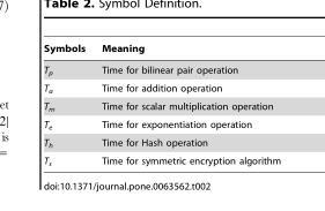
<table><thead><tr><td>Symbols</td><td>Meaning</td></tr></thead><tbody><tr><td>T<sub>p</sub></td><td>Time for bilinear pair operation</td></tr><tr><td>T<sub>a</sub></td><td>Time for addition operation</td></tr><tr><td>T<sub>m</sub></td><td>Time for scalar multiplication operation</td></tr><tr><td>T<sub>e</sub></td><td>Time for exponentiation operation</td></tr><tr><td>T<sub>h</sub></td><td>Time for Hash operation</td></tr><tr><td>T<sub>s</sub></td><td>Time for symmetric encryption algorithm</td></tr></tbody></table>